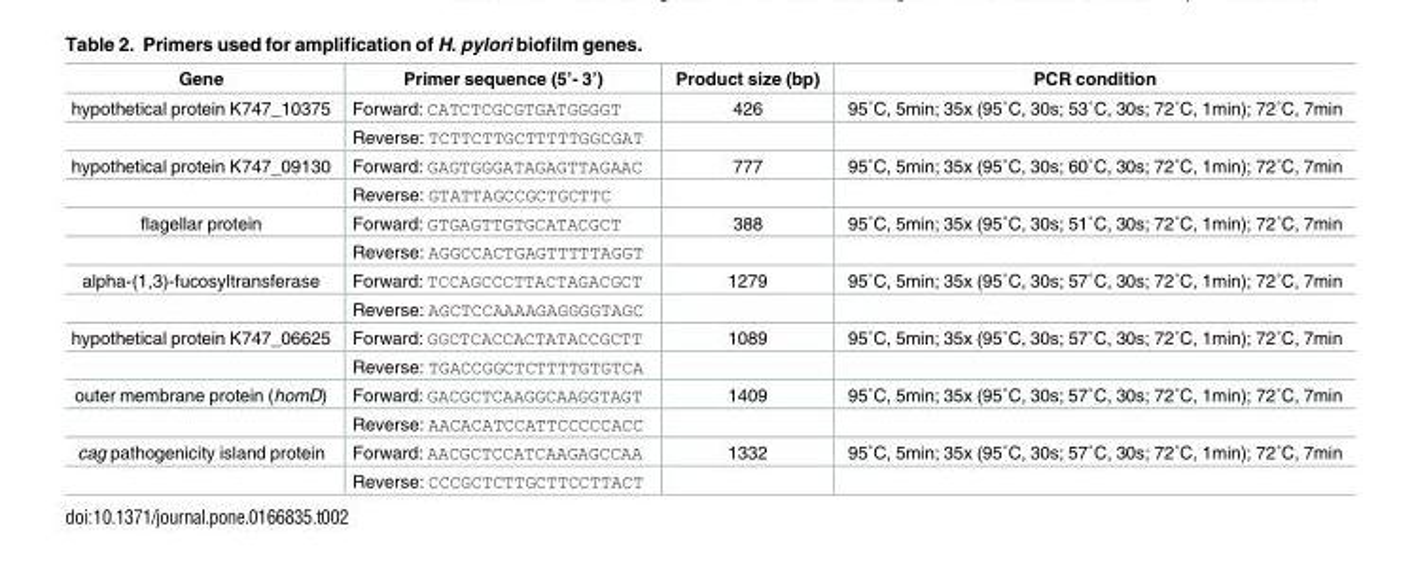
<table><thead><tr><td>Gene</td><td>Primer sequence (5’- 3’)</td><td>Product size (bp)</td><td>PCR condition</td></tr></thead><tbody><tr><td rowspan="2">hypothetical protein K747_10375</td><td>Forward: CATCTCGCGTGATGGGGT</td><td>426</td><td>95˚C, 5min; 35x (95˚C, 30s; 53˚C, 30s; 72˚C, 1min); 72˚C, 7min</td></tr><tr><td>Reverse: TCTTCTTGCTTTTTGGCGAT</td><td></td><td></td></tr><tr><td rowspan="2">hypothetical protein K747_09130</td><td>Forward: GAGTGGGATAGAGTTAGAAC</td><td>777</td><td>95˚C, 5min; 35x (95˚C, 30s; 60˚C, 30s; 72˚C, 1min); 72˚C, 7min</td></tr><tr><td>Reverse: GTATTAGCCGCTGCTTC</td><td></td><td></td></tr><tr><td rowspan="2">flagellar protein</td><td>Forward: GTGAGTTGTGCATACGCT</td><td>388</td><td>95˚C, 5min; 35x (95˚C, 30s; 51˚C, 30s; 72˚C, 1min); 72˚C, 7min</td></tr><tr><td>Reverse: AGGCCACTGAGTTTTTAGGT</td><td></td><td></td></tr><tr><td rowspan="2">alpha-(1,3)-fucosyltransferase</td><td>Forward: TCCAGCCCTTACTAGACGCT</td><td>1279</td><td>95˚C, 5min; 35x (95˚C, 30s; 57˚C, 30s; 72˚C, 1min); 72˚C, 7min</td></tr><tr><td>Reverse: AGCTCCAAAAGAGGGGTAGC</td><td></td><td></td></tr><tr><td rowspan="2">hypothetical protein K747_06625</td><td>Forward: GGCTCACCACTATACCGCTT</td><td>1089</td><td>95˚C, 5min; 35x (95˚C, 30s; 57˚C, 30s; 72˚C, 1min); 72˚C, 7min</td></tr><tr><td>Reverse: TGACCGGCTCTTTTGTGTCA</td><td></td><td></td></tr><tr><td rowspan="2">outer membrane protein (homD)</td><td>Forward: GACGCTCAAGGCAAGGTAGT</td><td>1409</td><td>95˚C, 5min; 35x (95˚C, 30s; 57˚C, 30s; 72˚C, 1min); 72˚C, 7min</td></tr><tr><td>Reverse: AACACATCCATTCCCCCACC</td><td></td><td></td></tr><tr><td rowspan="2">cag pathogenicity island protein</td><td>Forward: AACGCTCCATCAAGAGCCAA</td><td>1332</td><td>95˚C, 5min; 35x (95˚C, 30s; 57˚C, 30s; 72˚C, 1min); 72˚C, 7min</td></tr><tr><td>Reverse: CCCGCTCTTGCTTCCTTACT</td><td></td><td></td></tr></tbody></table>